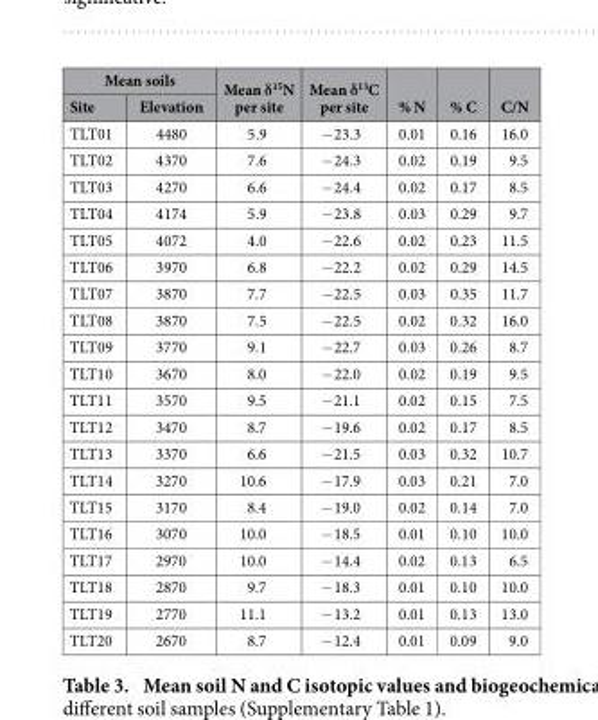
<table><thead><tr><td colspan="2">Mean soils</td><td rowspan="2">Mean δ<sup>15</sup>N per site</td><td rowspan="2">Mean δ<sup>13</sup>C per site</td><td rowspan="2">% N</td><td rowspan="2">% C</td><td rowspan="2">C/N</td></tr><tr><td>Site</td><td>Elevation</td></tr></thead><tbody><tr><td>TLT01</td><td>4480</td><td>5.9</td><td>− 23.3</td><td>0.01</td><td>0.16</td><td>16.0</td></tr><tr><td>TLT02</td><td>4370</td><td>7.6</td><td>− 24.3</td><td>0.02</td><td>0.19</td><td>9.5</td></tr><tr><td>TLT03</td><td>4270</td><td>6.6</td><td>− 24.4</td><td>0.02</td><td>0.17</td><td>8.5</td></tr><tr><td>TLT04</td><td>4174</td><td>5.9</td><td>− 23.8</td><td>0.03</td><td>0.29</td><td>9.7</td></tr><tr><td>TLT05</td><td>4072</td><td>4.0</td><td>− 22.6</td><td>0.02</td><td>0.23</td><td>11.5</td></tr><tr><td>TLT06</td><td>3970</td><td>6.8</td><td>− 22.2</td><td>0.02</td><td>0.29</td><td>14.5</td></tr><tr><td>TLT07</td><td>3870</td><td>7.7</td><td>− 22.5</td><td>0.03</td><td>0.35</td><td>11.7</td></tr><tr><td>TLT08</td><td>3870</td><td>7.5</td><td>− 22.5</td><td>0.02</td><td>0.32</td><td>16.0</td></tr><tr><td>TLT09</td><td>3770</td><td>9.1</td><td>− 22.7</td><td>0.03</td><td>0.26</td><td>8.7</td></tr><tr><td>TLT10</td><td>3670</td><td>8.0</td><td>− 22.0</td><td>0.02</td><td>0.19</td><td>9.5</td></tr><tr><td>TLT11</td><td>3570</td><td>9.5</td><td>− 21.1</td><td>0.02</td><td>0.15</td><td>7.5</td></tr><tr><td>TLT12</td><td>3470</td><td>8.7</td><td>− 19.6</td><td>0.02</td><td>0.17</td><td>8.5</td></tr><tr><td>TLT13</td><td>3370</td><td>6.6</td><td>− 21.5</td><td>0.03</td><td>0.32</td><td>10.7</td></tr><tr><td>TLT14</td><td>3270</td><td>10.6</td><td>− 17.9</td><td>0.03</td><td>0.21</td><td>7.0</td></tr><tr><td>TLT15</td><td>3170</td><td>8.4</td><td>− 19.0</td><td>0.02</td><td>0.14</td><td>7.0</td></tr><tr><td>TLT16</td><td>3070</td><td>10.0</td><td>− 18.5</td><td>0.01</td><td>0.10</td><td>10.0</td></tr><tr><td>TLT17</td><td>2970</td><td>10.0</td><td>− 14.4</td><td>0.02</td><td>0.13</td><td>6.5</td></tr><tr><td>TLT18</td><td>2870</td><td>9.7</td><td>− 18.3</td><td>0.01</td><td>0.10</td><td>10.0</td></tr><tr><td>TLT19</td><td>2770</td><td>11.1</td><td>− 13.2</td><td>0.01</td><td>0.13</td><td>13.0</td></tr><tr><td>TLT20</td><td>2670</td><td>8.7</td><td>− 12.4</td><td>0.01</td><td>0.09</td><td>9.0</td></tr></tbody></table>